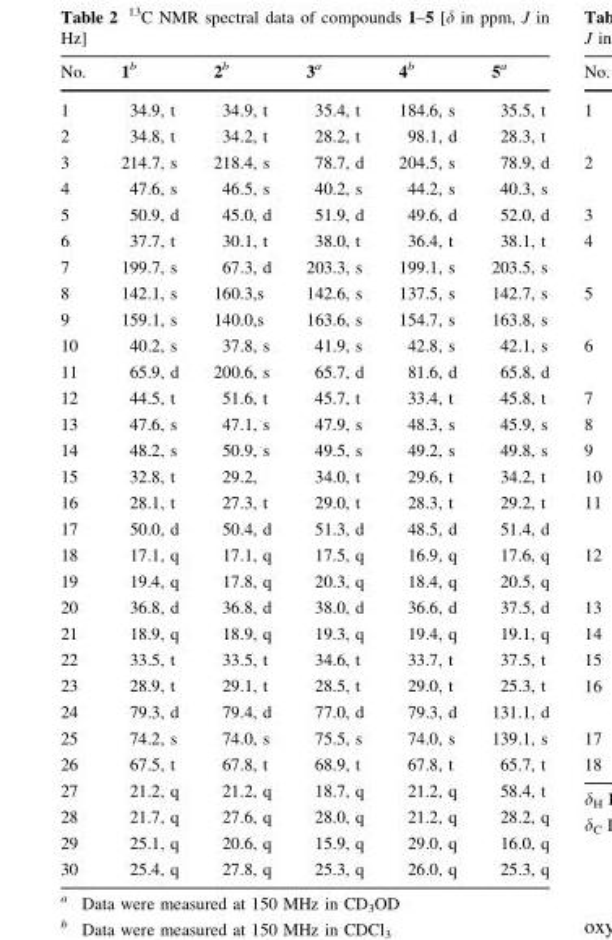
<table><thead><tr><td>No.</td><td>1<sup>b</sup></td><td>2<sup>b</sup></td><td>3<sup>a</sup></td><td>4<sup>b</sup></td><td>5<sup>a</sup></td></tr></thead><tbody><tr><td>1</td><td>34.9, t</td><td>34.9, t</td><td>35.4, t</td><td>184.6, s</td><td>35.5, t</td></tr><tr><td>2</td><td>34.8, t</td><td>34.2, t</td><td>28.2, t</td><td>98.1, d</td><td>28.3, t</td></tr><tr><td>3</td><td>214.7, s</td><td>218.4, s</td><td>78.7, d</td><td>204.5, s</td><td>78.9, d</td></tr><tr><td>4</td><td>47.6, s</td><td>46.5, s</td><td>40.2, s</td><td>44.2, s</td><td>40.3, s</td></tr><tr><td>5</td><td>50.9, d</td><td>45.0, d</td><td>51.9, d</td><td>49.6, d</td><td>52.0, d</td></tr><tr><td>6</td><td>37.7, t</td><td>30.1, t</td><td>38.0, t</td><td>36.4, t</td><td>38.1, t</td></tr><tr><td>7</td><td>199.7, s</td><td>67.3, d</td><td>203.3, s</td><td>199.1, s</td><td>203.5, s</td></tr><tr><td>8</td><td>142.1, s</td><td>160.3,s</td><td>142.6, s</td><td>137.5, s</td><td>142.7, s</td></tr><tr><td>9</td><td>159.1, s</td><td>140.0,s</td><td>163.6, s</td><td>154.7, s</td><td>163.8, s</td></tr><tr><td>10</td><td>40.2, s</td><td>37.8, s</td><td>41.9, s</td><td>42.8, s</td><td>42.1, s</td></tr><tr><td>11</td><td>65.9, d</td><td>200.6, s</td><td>65.7, d</td><td>81.6, d</td><td>65.8, d</td></tr><tr><td>12</td><td>44.5, t</td><td>51.6, t</td><td>45.7, t</td><td>33.4, t</td><td>45.8, t</td></tr><tr><td>13</td><td>47.6, s</td><td>47.1, s</td><td>47.9, s</td><td>48.3, s</td><td>45.9, s</td></tr><tr><td>14</td><td>48.2, s</td><td>50.9, s</td><td>49.5, s</td><td>49.2, s</td><td>49.8, s</td></tr><tr><td>15</td><td>32.8, t</td><td>29.2,</td><td>34.0, t</td><td>29.6, t</td><td>34.2, t</td></tr><tr><td>16</td><td>28.1, t</td><td>27.3, t</td><td>29.0, t</td><td>28.3, t</td><td>29.2, t</td></tr><tr><td>17</td><td>50.0, d</td><td>50.4, d</td><td>51.3, d</td><td>48.5, d</td><td>51.4, d</td></tr><tr><td>18</td><td>17.1, q</td><td>17.1, q</td><td>17.5, q</td><td>16.9, q</td><td>17.6, q</td></tr><tr><td>19</td><td>19.4, q</td><td>17.8, q</td><td>20.3, q</td><td>18.4, q</td><td>20.5, q</td></tr><tr><td>20</td><td>36.8, d</td><td>36.8, d</td><td>38.0, d</td><td>36.6, d</td><td>37.5, d</td></tr><tr><td>21</td><td>18.9, q</td><td>18.9, q</td><td>19.3, q</td><td>19.4, q</td><td>19.1, q</td></tr><tr><td>22</td><td>33.5, t</td><td>33.5, t</td><td>34.6, t</td><td>33.7, t</td><td>37.5, t</td></tr><tr><td>23</td><td>28.9, t</td><td>29.1, t</td><td>28.5, t</td><td>29.0, t</td><td>25.3, t</td></tr><tr><td>24</td><td>79.3, d</td><td>79.4, d</td><td>77.0, d</td><td>79.3, d</td><td>131.1, d</td></tr><tr><td>25</td><td>74.2, s</td><td>74.0, s</td><td>75.5, s</td><td>74.0, s</td><td>139.1, s</td></tr><tr><td>26</td><td>67.5, t</td><td>67.8, t</td><td>68.9, t</td><td>67.8, t</td><td>65.7, t</td></tr><tr><td>27</td><td>21.2, q</td><td>21.2, q</td><td>18.7, q</td><td>21.2, q</td><td>58.4, t</td></tr><tr><td>28</td><td>21.7, q</td><td>27.6, q</td><td>28.0, q</td><td>21.2, q</td><td>28.2, q</td></tr><tr><td>29</td><td>25.1, q</td><td>20.6, q</td><td>15.9, q</td><td>29.0, q</td><td>16.0, q</td></tr><tr><td>30</td><td>25.4, q</td><td>27.8, q</td><td>25.3, q</td><td>26.0, q</td><td>25.3, q</td></tr></tbody></table>